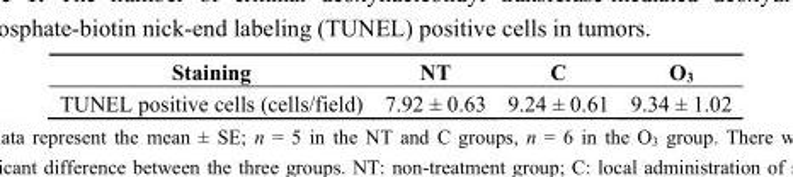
<table><thead><tr><td>Staining</td><td>NT</td><td>C</td><td>O<sub>3</sub></td></tr></thead><tbody><tr><td>TUNEL positive cells (cells/field)</td><td>7.92 ± 0.63</td><td>9.24 ± 0.61</td><td>9.34 ± 1.02</td></tr></tbody></table>